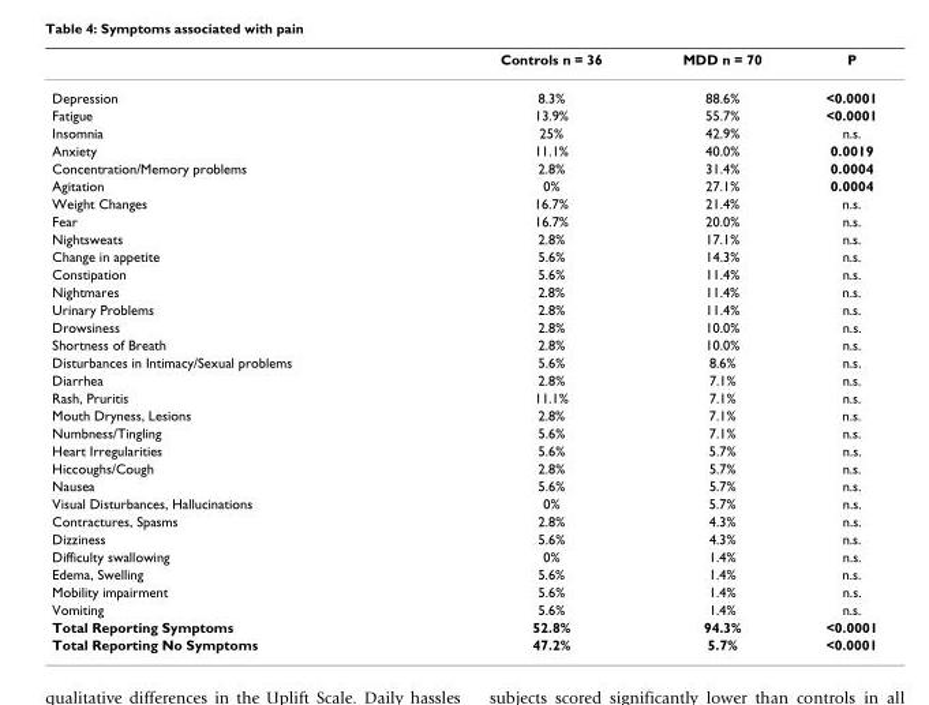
<table><thead><tr><td></td><td>Controls n = 36</td><td>MDD n = 70</td><td>P</td></tr></thead><tbody><tr><td>Depression</td><td>8.3%</td><td>88.6%</td><td>&lt;0.0001</td></tr><tr><td>Fatigue</td><td>13.9%</td><td>55.7%</td><td>&lt;0.0001</td></tr><tr><td>Insomnia</td><td>25%</td><td>42.9%</td><td>n.s.</td></tr><tr><td>Anxiety</td><td>11.1%</td><td>40.0%</td><td>0.0019</td></tr><tr><td>Concentration/Memory problems</td><td>2.8%</td><td>31.4%</td><td>0.0004</td></tr><tr><td>Agitation</td><td>0%</td><td>27.1%</td><td>0.0004</td></tr><tr><td>Weight Changes</td><td>16.7%</td><td>21.4%</td><td>n.s.</td></tr><tr><td>Fear</td><td>16.7%</td><td>20.0%</td><td>n.s.</td></tr><tr><td>Nightsweats</td><td>2.8%</td><td>17.1%</td><td>n.s.</td></tr><tr><td>Change in appetite</td><td>5.6%</td><td>14.3%</td><td>n.s.</td></tr><tr><td>Constipation</td><td>5.6%</td><td>11.4%</td><td>n.s.</td></tr><tr><td>Nightmares</td><td>2.8%</td><td>11.4%</td><td>n.s.</td></tr><tr><td>Urinary Problems</td><td>2.8%</td><td>11.4%</td><td>n.s.</td></tr><tr><td>Drowsiness</td><td>2.8%</td><td>10.0%</td><td>n.s.</td></tr><tr><td>Shortness of Breath</td><td>2.8%</td><td>10.0%</td><td>n.s.</td></tr><tr><td>Disturbances in Intimacy/Sexual problems</td><td>5.6%</td><td>8.6%</td><td>n.s.</td></tr><tr><td>Diarrhea</td><td>2.8%</td><td>7.1%</td><td>n.s.</td></tr><tr><td>Rash, Pruritis</td><td>11.1%</td><td>7.1%</td><td>n.s.</td></tr><tr><td>Mouth Dryness, Lesions</td><td>2.8%</td><td>7.1%</td><td>n.s.</td></tr><tr><td>Numbness/Tingling</td><td>5.6%</td><td>7.1%</td><td>n.s.</td></tr><tr><td>Heart Irregularities</td><td>5.6%</td><td>5.7%</td><td>n.s.</td></tr><tr><td>Hiccoughs/Cough</td><td>2.8%</td><td>5.7%</td><td>n.s.</td></tr><tr><td>Nausea</td><td>5.6%</td><td>5.7%</td><td>n.s.</td></tr><tr><td>Visual Disturbances, Hallucinations</td><td>0%</td><td>5.7%</td><td>n.s.</td></tr><tr><td>Contractures, Spasms</td><td>2.8%</td><td>4.3%</td><td>n.s.</td></tr><tr><td>Dizziness</td><td>5.6%</td><td>4.3%</td><td>n.s.</td></tr><tr><td>Difficulty swallowing</td><td>0%</td><td>1.4%</td><td>n.s.</td></tr><tr><td>Edema, Swelling</td><td>5.6%</td><td>1.4%</td><td>n.s.</td></tr><tr><td>Mobility impairment</td><td>5.6%</td><td>1.4%</td><td>n.s.</td></tr><tr><td>Vomiting</td><td>5.6%</td><td>1.4%</td><td>n.s.</td></tr><tr><td>Total Reporting Symptoms</td><td>52.8%</td><td>94.3%</td><td>&lt;0.0001</td></tr><tr><td>Total Reporting No Symptoms</td><td>47.2%</td><td>5.7%</td><td>&lt;0.0001</td></tr></tbody></table>